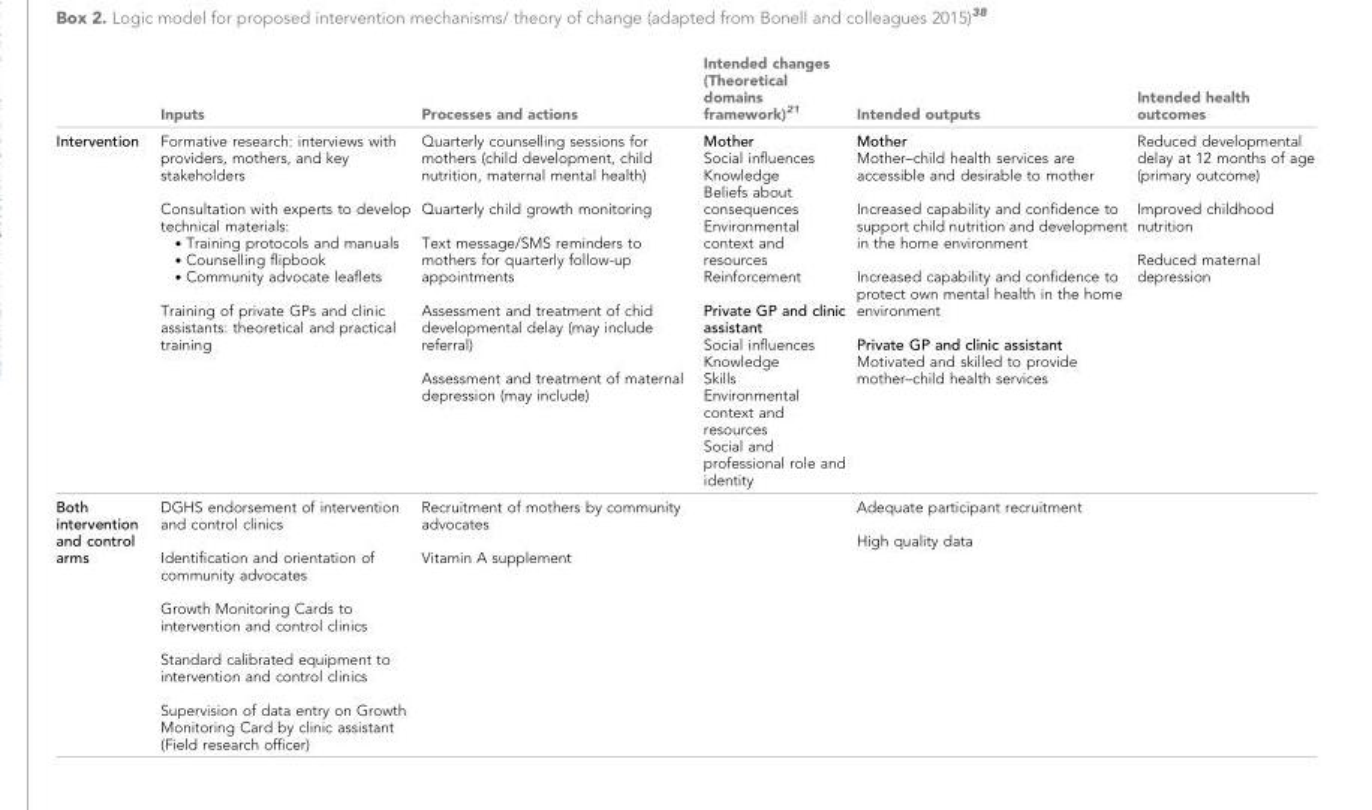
<table><thead><tr><td></td><td>Inputs</td><td>Processes and actions</td><td>Intended changes (Theoretical domains framework)<sup>21</sup></td><td>Intended outputs</td><td>Intended health outcomes</td></tr></thead><tbody><tr><td>Intervention</td><td>Formative research: interviews with providers, mothers, and key stakeholders Consultation with experts to develop technical materials: . Training protocols and manuals . Counselling flipbook . Community advocate leaflets Training of private GPs and clinic assistants: theoretical and practical training</td><td>Quarterly counselling sessions for mothers (child development, child nutrition, maternal mental health) Quarterly child growth monitoring Text message/SMS reminders to mothers for quarterly follow-up appointments Assessment and treatment of chid developmental delay (may include referral) Assessment and treatment of maternal depression (may include)</td><td>Mother Social influences Knowledge Beliefs about consequences Environmental context and resources Reinforcement Private GP and clinic assistant Social influences Knowledge Skills Environmental context and resources Social and professional role and identity</td><td>Mother Mother–child health services are accessible and desirable to mother Increased capability and confidence to support child nutrition and development in the home environment Increased capability and confidence to protect own mental health in the home environment Private GP and clinic assistant Motivated and skilled to provide mother–child health services</td><td>Reduced developmental delay at 12 months of age (primary outcome) Improved childhood nutrition Reduced maternal depression</td></tr><tr><td>Both intervention and control arms</td><td>DGHS endorsement of intervention and control clinics Identification and orientation of community advocates Growth Monitoring Cards to intervention and control clinics Standard calibrated equipment to intervention and control clinics Supervision of data entry on Growth Monitoring Card by clinic assistant (Field research officer)</td><td>Recruitment of mothers by community advocates Vitamin A supplement</td><td></td><td>Adequate participant recruitment High quality data</td><td></td></tr></tbody></table>